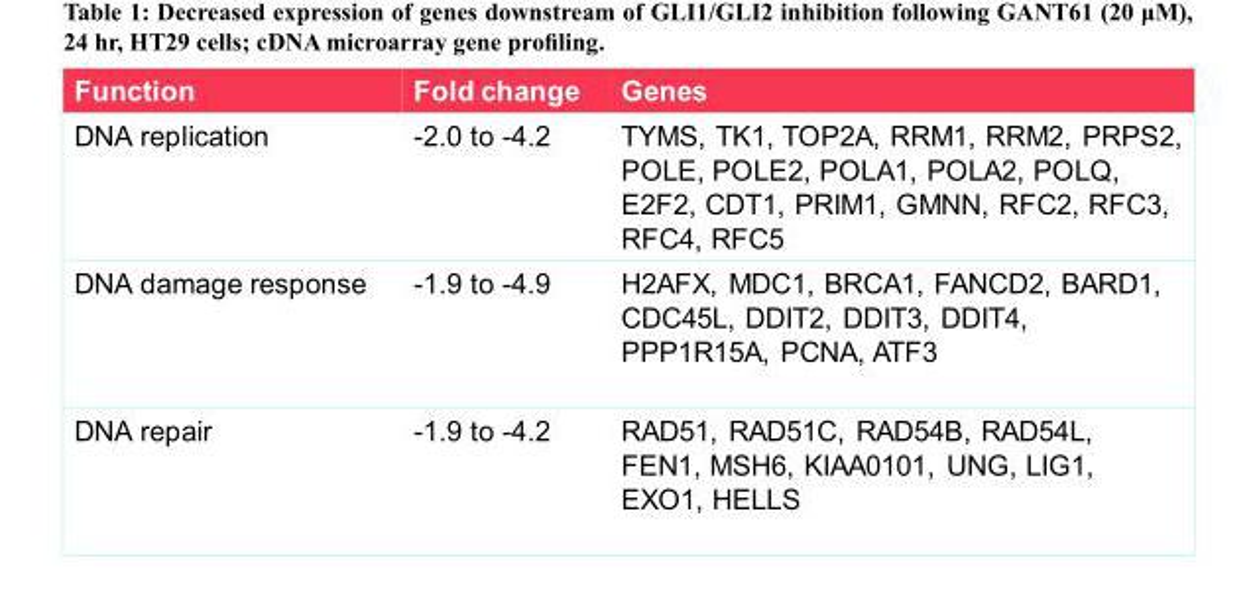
<table><thead><tr><td>Function</td><td>Fold change</td><td>Genes</td></tr></thead><tbody><tr><td>DNA replication</td><td>-2.0 to -4.2</td><td>TYMS, TK1, TOP2A, RRM1, RRM2, PRPS2, POLE, POLE2, POLA1, POLA2, POLQ, E2F2, CDT1, PRIM1, GMNN, RFC2, RFC3, RFC4, RFC5</td></tr><tr><td>DNA damage response</td><td>-1.9 to -4.9</td><td>H2AFX, MDC1, BRCA1, FANCD2, BARD1, CDC45L, DDIT2, DDIT3, DDIT4, PPP1R15A, PCNA, ATF3</td></tr><tr><td>DNA repair</td><td>-1.9 to -4.2</td><td>RAD51, RAD51C, RAD54B, RAD54L, FEN1, MSH6, KIAA0101, UNG, LIG1, EXO1, HELLS</td></tr></tbody></table>